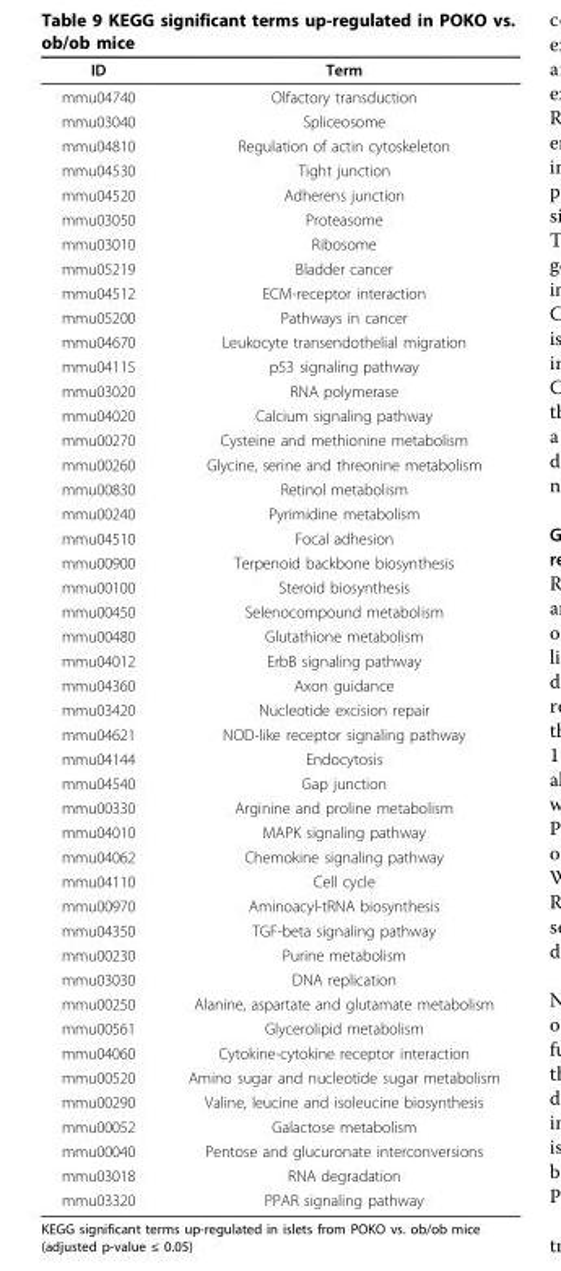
<table><thead><tr><td>ID</td><td>Term</td></tr></thead><tbody><tr><td>mmu04740</td><td>Olfactory transduction</td></tr><tr><td>mmu03040</td><td>Spliceosome</td></tr><tr><td>mmu04810</td><td>Regulation of actin cytoskeleton</td></tr><tr><td>mmu04530</td><td>Tight junction</td></tr><tr><td>mmu04520</td><td>Adherens junction</td></tr><tr><td>mmu03050</td><td>Proteasome</td></tr><tr><td>mmu03010</td><td>Ribosome</td></tr><tr><td>mmu05219</td><td>Bladder cancer</td></tr><tr><td>mmu04512</td><td>ECM-receptor interaction</td></tr><tr><td>mmu05200</td><td>Pathways in cancer</td></tr><tr><td>mmu04670</td><td>Leukocyte transendothelial migration</td></tr><tr><td>mmu04115</td><td>p53 signaling pathway</td></tr><tr><td>mmu03020</td><td>RNA polymerase</td></tr><tr><td>mmu04020</td><td>Calcium signaling pathway</td></tr><tr><td>mmu00270</td><td>Cysteine and methionine metabolism</td></tr><tr><td>mmu00260</td><td>Glycine, serine and threonine metabolism</td></tr><tr><td>mmu00830</td><td>Retinol metabolism</td></tr><tr><td>mmu00240</td><td>Pyrimidine metabolism</td></tr><tr><td>mmu04510</td><td>Focal adhesion</td></tr><tr><td>mmu00900</td><td>Terpenoid backbone biosynthesis</td></tr><tr><td>mmu00100</td><td>Steroid biosynthesis</td></tr><tr><td>mmu00450</td><td>Selenocompound metabolism</td></tr><tr><td>mmu00480</td><td>Glutathione metabolism</td></tr><tr><td>mmu04012</td><td>ErbB signaling pathway</td></tr><tr><td>mmu04360</td><td>Axon guidance</td></tr><tr><td>mmu03420</td><td>Nucleotide excision repair</td></tr><tr><td>mmu04621</td><td>NOD-like receptor signaling pathway</td></tr><tr><td>mmu04144</td><td>Endocytosis</td></tr><tr><td>mmu04540</td><td>Gap junction</td></tr><tr><td>mmu00330</td><td>Arginine and proline metabolism</td></tr><tr><td>mmu04010</td><td>MAPK signaling pathway</td></tr><tr><td>mmu04062</td><td>Chemokine signaling pathway</td></tr><tr><td>mmu04110</td><td>Cell cycle</td></tr><tr><td>mmu00970</td><td>Aminoacyl-tRNA biosynthesis</td></tr><tr><td>mmu04350</td><td>TGF-beta signaling pathway</td></tr><tr><td>mmu00230</td><td>Purine metabolism</td></tr><tr><td>mmu03030</td><td>DNA replication</td></tr><tr><td>mmu00250</td><td>Alanine, aspartate and glutamate metabolism</td></tr><tr><td>mmu00561</td><td>Glycerolipid metabolism</td></tr><tr><td>mmu04060</td><td>Cytokine-cytokine receptor interaction</td></tr><tr><td>mmu00520</td><td>Amino sugar and nucleotide sugar metabolism</td></tr><tr><td>mmu00290</td><td>Valine, leucine and isoleucine biosynthesis</td></tr><tr><td>mmu00052</td><td>Galactose metabolism</td></tr><tr><td>mmu00040</td><td>Pentose and glucuronate interconversions</td></tr><tr><td>mmu03018</td><td>RNA degradation</td></tr><tr><td>mmu03320</td><td>PPAR signaling pathway</td></tr></tbody></table>